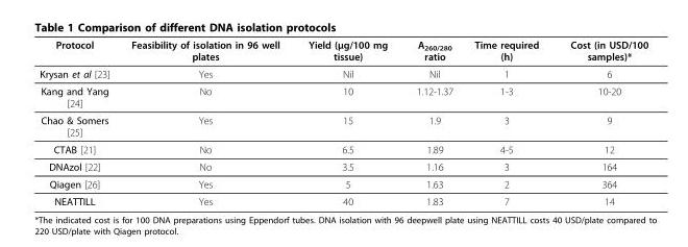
<table><thead><tr><td>Protocol</td><td>Feasibility of isolation in 96 well plates</td><td>Yield (μg/100 mg tissue)</td><td>A<sub>260/280</sub> ratio</td><td>Time required (h)</td><td>Cost (in USD/100 samples)*</td></tr></thead><tbody><tr><td>Krysan et al [23]</td><td>Yes</td><td>Nil</td><td>Nil</td><td>1</td><td>6</td></tr><tr><td>Kang and Yang [24]</td><td>No</td><td>10</td><td>1.12-1.37</td><td>1-3</td><td>10-20</td></tr><tr><td>Chao &amp; Somers [25]</td><td>Yes</td><td>15</td><td>1.9</td><td>3</td><td>9</td></tr><tr><td>CTAB [21]</td><td>No</td><td>6.5</td><td>1.89</td><td>4-5</td><td>12</td></tr><tr><td>DNAzol [22]</td><td>No</td><td>3.5</td><td>1.16</td><td>3</td><td>164</td></tr><tr><td>Qiagen [26]</td><td>Yes</td><td>5</td><td>1.63</td><td>2</td><td>364</td></tr><tr><td>NEATTILL</td><td>Yes</td><td>40</td><td>1.83</td><td>7</td><td>14</td></tr></tbody></table>